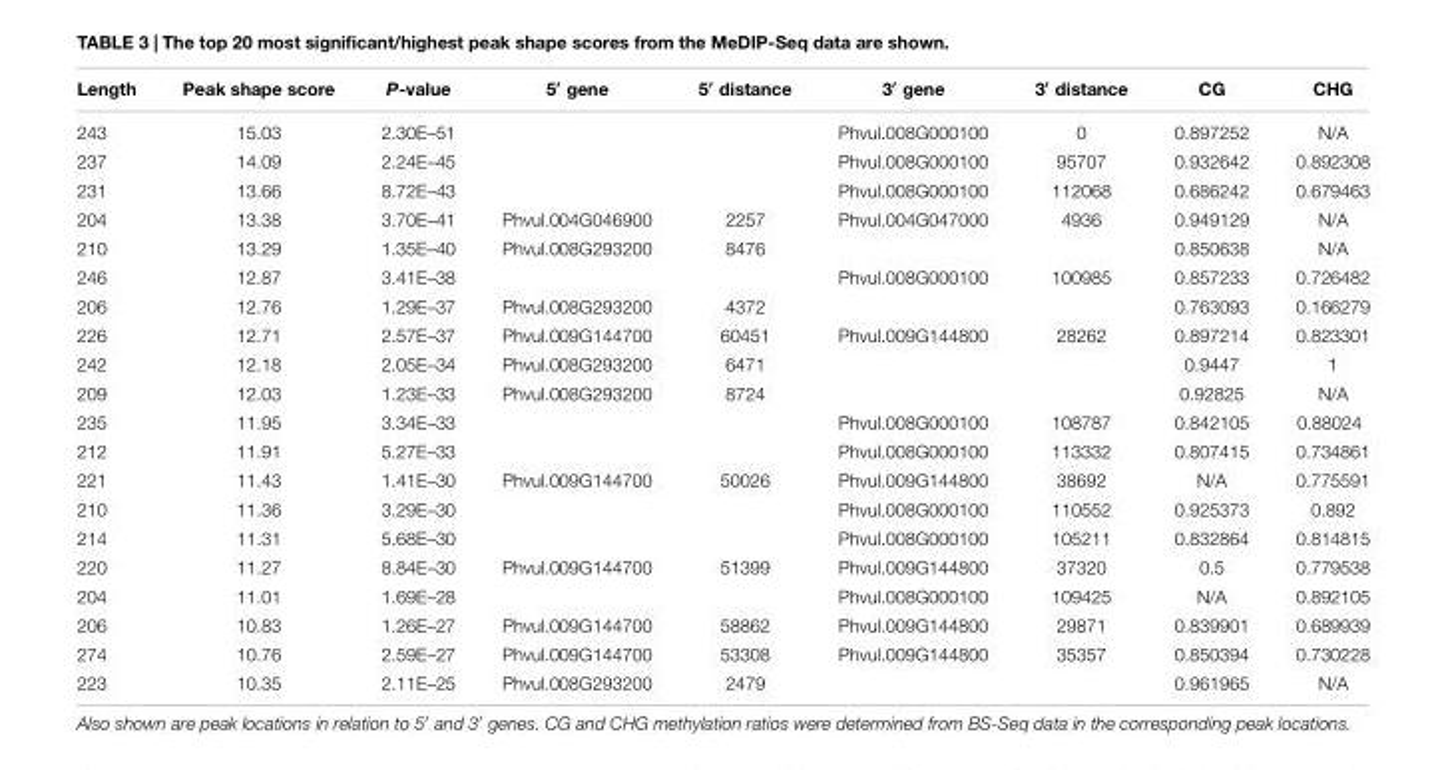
<table><thead><tr><td>Length</td><td>Peak shape score</td><td>P-value</td><td>5′ gene</td><td>5′ distance</td><td>3′ gene</td><td>3′ distance</td><td>CG</td><td>CHG</td></tr></thead><tbody><tr><td>243</td><td>15.03</td><td>2.30E–51</td><td></td><td></td><td>Phvul.008G000100</td><td>0</td><td>0.897252</td><td>N/A</td></tr><tr><td>237</td><td>14.09</td><td>2.24E–45</td><td></td><td></td><td>Phvul.008G000100</td><td>95707</td><td>0.932642</td><td>0.892308</td></tr><tr><td>231</td><td>13.66</td><td>8.72E–43</td><td></td><td></td><td>Phvul.008G000100</td><td>112068</td><td>0.686242</td><td>0.679463</td></tr><tr><td>204</td><td>13.38</td><td>3.70E–41</td><td>Phvul.004G046900</td><td>2257</td><td>Phvul.004G047000</td><td>4936</td><td>0.949129</td><td>N/A</td></tr><tr><td>210</td><td>13.29</td><td>1.35E–40</td><td>Phvul.008G293200</td><td>8476</td><td></td><td></td><td>0.850638</td><td>N/A</td></tr><tr><td>246</td><td>12.87</td><td>3.41E–38</td><td></td><td></td><td>Phvul.008G000100</td><td>100985</td><td>0.857233</td><td>0.726482</td></tr><tr><td>206</td><td>12.76</td><td>1.29E–37</td><td>Phvul.008G293200</td><td>4372</td><td></td><td></td><td>0.763093</td><td>0.166279</td></tr><tr><td>226</td><td>12.71</td><td>2.57E–37</td><td>Phvul.009G144700</td><td>60451</td><td>Phvul.009G144800</td><td>28262</td><td>0.897214</td><td>0.823301</td></tr><tr><td>242</td><td>12.18</td><td>2.05E–34</td><td>Phvul.008G293200</td><td>6471</td><td></td><td></td><td>0.9447</td><td>1</td></tr><tr><td>209</td><td>12.03</td><td>1.23E–33</td><td>Phvul.008G293200</td><td>8724</td><td></td><td></td><td>0.92825</td><td>N/A</td></tr><tr><td>235</td><td>11.95</td><td>3.34E–33</td><td></td><td></td><td>Phvul.008G000100</td><td>108787</td><td>0.842105</td><td>0.88024</td></tr><tr><td>212</td><td>11.91</td><td>5.27E–33</td><td></td><td></td><td>Phvul.008G000100</td><td>113332</td><td>0.807415</td><td>0.734861</td></tr><tr><td>221</td><td>11.43</td><td>1.41E–30</td><td>Phvul.009G144700</td><td>50026</td><td>Phvul.009G144800</td><td>38692</td><td>N/A</td><td>0.775591</td></tr><tr><td>210</td><td>11.36</td><td>3.29E–30</td><td></td><td></td><td>Phvul.008G000100</td><td>110552</td><td>0.925373</td><td>0.892</td></tr><tr><td>214</td><td>11.31</td><td>5.68E–30</td><td></td><td></td><td>Phvul.008G000100</td><td>105211</td><td>0.832864</td><td>0.814815</td></tr><tr><td>220</td><td>11.27</td><td>8.84E–30</td><td>Phvul.009G144700</td><td>51399</td><td>Phvul.009G144800</td><td>37320</td><td>0.5</td><td>0.779538</td></tr><tr><td>204</td><td>11.01</td><td>1.69E–28</td><td></td><td></td><td>Phvul.008G000100</td><td>109425</td><td>N/A</td><td>0.892105</td></tr><tr><td>206</td><td>10.83</td><td>1.26E–27</td><td>Phvul.009G144700</td><td>58862</td><td>Phvul.009G144800</td><td>29871</td><td>0.839901</td><td>0.689939</td></tr><tr><td>274</td><td>10.76</td><td>2.59E–27</td><td>Phvul.009G144700</td><td>53308</td><td>Phvul.009G144800</td><td>35357</td><td>0.850394</td><td>0.730228</td></tr><tr><td>223</td><td>10.35</td><td>2.11E–25</td><td>Phvul.008G293200</td><td>2479</td><td></td><td></td><td>0.961965</td><td>N/A</td></tr></tbody></table>